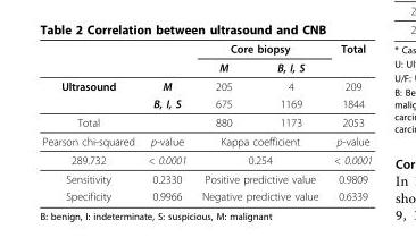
<table><thead><tr><td rowspan="2"></td><td rowspan="2"></td><td colspan="2">Core biopsy</td><td rowspan="2">Total</td></tr><tr><td>M</td><td>B, I, S</td></tr></thead><tbody><tr><td rowspan="2">Ultrasound</td><td>M</td><td>205</td><td>4</td><td>209</td></tr><tr><td>B, I, S</td><td>675</td><td>1169</td><td>1844</td></tr><tr><td>Total</td><td></td><td>880</td><td>1173</td><td>2053</td></tr><tr><td>Pearson chi-squared</td><td>p-value</td><td colspan="2">Kappa coefficient</td><td>p-value</td></tr><tr><td>289.732</td><td>&lt; 0.0001</td><td colspan="2">0.254</td><td>&lt; 0.0001</td></tr><tr><td>Sensitivity</td><td>0.2330</td><td colspan="2">Positive predictive value</td><td>0.9809</td></tr><tr><td>Specificity</td><td>0.9966</td><td colspan="2">Negative predictive value</td><td>0.6339</td></tr></tbody></table>